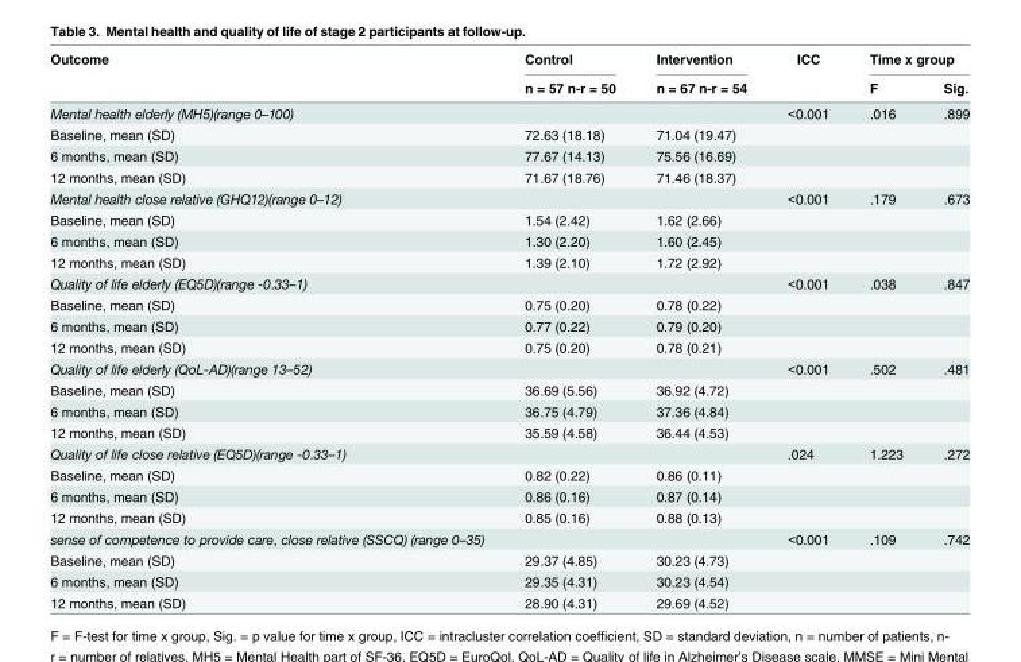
<table><thead><tr><td rowspan="2">Outcome</td><td rowspan="2">Control n = 57 n-r = 50</td><td rowspan="2">Intervention n = 67 n-r = 54</td><td rowspan="2">ICC</td><td colspan="2">Time x group</td></tr><tr><td>F</td><td>Sig.</td></tr></thead><tbody><tr><td>Mental health elderly (MH5)(range 0–100)</td><td></td><td></td><td>&lt;0.001</td><td>.016</td><td>.899</td></tr><tr><td>Baseline, mean (SD)</td><td>72.63 (18.18)</td><td>71.04 (19.47)</td><td></td><td></td><td></td></tr><tr><td>6 months, mean (SD)</td><td>77.67 (14.13)</td><td>75.56 (16.69)</td><td></td><td></td><td></td></tr><tr><td>12 months, mean (SD)</td><td>71.67 (18.76)</td><td>71.46 (18.37)</td><td></td><td></td><td></td></tr><tr><td>Mental health close relative (GHQ12)(range 0–12)</td><td></td><td></td><td>&lt;0.001</td><td>.179</td><td>.673</td></tr><tr><td>Baseline, mean (SD)</td><td>1.54 (2.42)</td><td>1.62 (2.66)</td><td></td><td></td><td></td></tr><tr><td>6 months, mean (SD)</td><td>1.30 (2.20)</td><td>1.60 (2.45)</td><td></td><td></td><td></td></tr><tr><td>12 months, mean (SD)</td><td>1.39 (2.10)</td><td>1.72 (2.92)</td><td></td><td></td><td></td></tr><tr><td>Quality of life elderly (EQ5D)(range -0.33–1)</td><td></td><td></td><td>&lt;0.001</td><td>.038</td><td>.847</td></tr><tr><td>Baseline, mean (SD)</td><td>0.75 (0.20)</td><td>0.78 (0.22)</td><td></td><td></td><td></td></tr><tr><td>6 months, mean (SD)</td><td>0.77 (0.22)</td><td>0.79 (0.20)</td><td></td><td></td><td></td></tr><tr><td>12 months, mean (SD)</td><td>0.75 (0.20)</td><td>0.78 (0.21)</td><td></td><td></td><td></td></tr><tr><td>Quality of life elderly (QoL-AD)(range 13–52)</td><td></td><td></td><td>&lt;0.001</td><td>.502</td><td>.481</td></tr><tr><td>Baseline, mean (SD)</td><td>36.69 (5.56)</td><td>36.92 (4.72)</td><td></td><td></td><td></td></tr><tr><td>6 months, mean (SD)</td><td>36.75 (4.79)</td><td>37.36 (4.84)</td><td></td><td></td><td></td></tr><tr><td>12 months, mean (SD)</td><td>35.59 (4.58)</td><td>36.44 (4.53)</td><td></td><td></td><td></td></tr><tr><td>Quality of life close relative (EQ5D)(range -0.33–1)</td><td></td><td></td><td>.024</td><td>1.223</td><td>.272</td></tr><tr><td>Baseline, mean (SD)</td><td>0.82 (0.22)</td><td>0.86 (0.11)</td><td></td><td></td><td></td></tr><tr><td>6 months, mean (SD)</td><td>0.86 (0.16)</td><td>0.87 (0.14)</td><td></td><td></td><td></td></tr><tr><td>12 months, mean (SD)</td><td>0.85 (0.16)</td><td>0.88 (0.13)</td><td></td><td></td><td></td></tr><tr><td>sense of competence to provide care, close relative (SSCQ) (range 0–35)</td><td></td><td></td><td>&lt;0.001</td><td>.109</td><td>.742</td></tr><tr><td>Baseline, mean (SD)</td><td>29.37 (4.85)</td><td>30.23 (4.73)</td><td></td><td></td><td></td></tr><tr><td>6 months, mean (SD)</td><td>29.35 (4.31)</td><td>30.23 (4.54)</td><td></td><td></td><td></td></tr><tr><td>12 months, mean (SD)</td><td>28.90 (4.31)</td><td>29.69 (4.52)</td><td></td><td></td><td></td></tr></tbody></table>